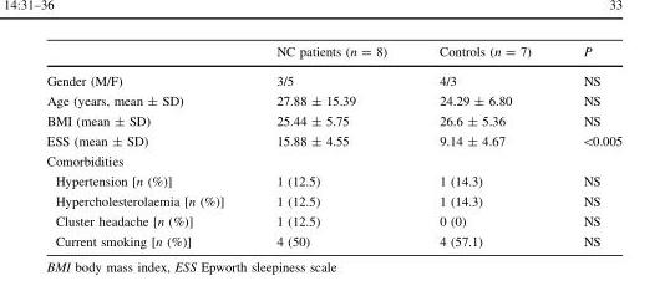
<table><thead><tr><td></td><td>NC patients (n = 8)</td><td>Controls (n = 7)</td><td>P</td></tr></thead><tbody><tr><td>Gender (M/F)</td><td>3/5</td><td>4/3</td><td>NS</td></tr><tr><td>Age (years, mean ± SD)</td><td>27.88 ± 15.39</td><td>24.29 ± 6.80</td><td>NS</td></tr><tr><td>BMI (mean ± SD)</td><td>25.44 ± 5.75</td><td>26.6 ± 5.36</td><td>NS</td></tr><tr><td>ESS (mean ± SD)</td><td>15.88 ± 4.55</td><td>9.14 ± 4.67</td><td>&lt;0.005</td></tr><tr><td colspan="4">Comorbidities</td></tr><tr><td>Hypertension [n (%)]</td><td>1 (12.5)</td><td>1 (14.3)</td><td>NS</td></tr><tr><td>Hypercholesterolaemia [n (%)]</td><td>1 (12.5)</td><td>1 (14.3)</td><td>NS</td></tr><tr><td>Cluster headache [n (%)]</td><td>1 (12.5)</td><td>0 (0)</td><td>NS</td></tr><tr><td>Current smoking [n (%)]</td><td>4 (50)</td><td>4 (57.1)</td><td>NS</td></tr></tbody></table>